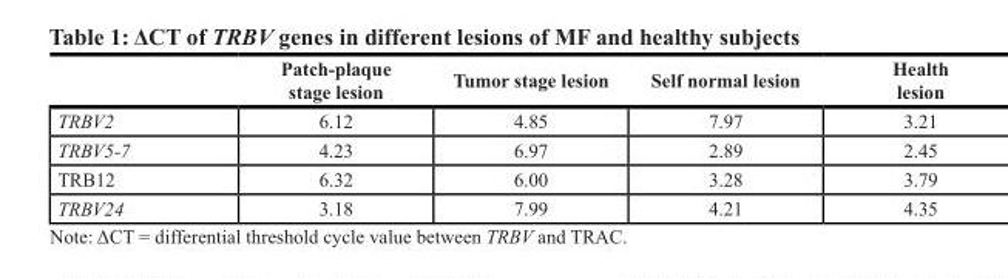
<table><thead><tr><td></td><td>Patch-plaque stage lesion</td><td>Tumor stage lesion</td><td>Self normal lesion</td><td>Health lesion</td></tr></thead><tbody><tr><td>TRBV2</td><td>6.12</td><td>4.85</td><td>7.97</td><td>3.21</td></tr><tr><td>TRBV5-7</td><td>4.23</td><td>6.97</td><td>2.89</td><td>2.45</td></tr><tr><td>TRB12</td><td>6.32</td><td>6.00</td><td>3.28</td><td>3.79</td></tr><tr><td>TRBV24</td><td>3.18</td><td>7.99</td><td>4.21</td><td>4.35</td></tr></tbody></table>